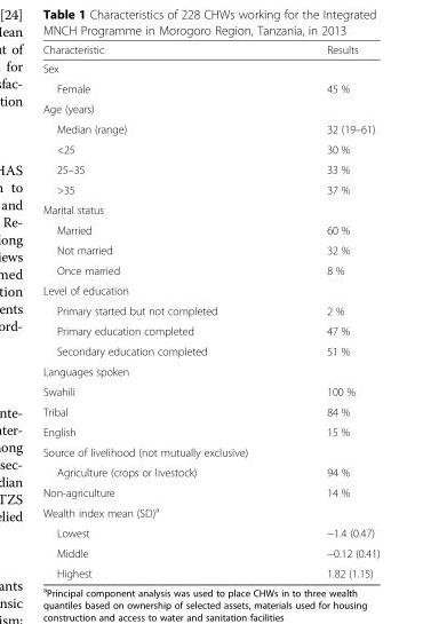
<table><thead><tr><td>Characteristic</td><td>Results</td></tr></thead><tbody><tr><td colspan="2">Sex</td></tr><tr><td>Female</td><td>45 %</td></tr><tr><td colspan="2">Age (years)</td></tr><tr><td>Median (range)</td><td>32 (19–61)</td></tr><tr><td>&lt;25</td><td>30 %</td></tr><tr><td>25–35</td><td>33 %</td></tr><tr><td>&gt;35</td><td>37 %</td></tr><tr><td colspan="2">Marital status</td></tr><tr><td>Married</td><td>60 %</td></tr><tr><td>Not married</td><td>32 %</td></tr><tr><td>Once married</td><td>8 %</td></tr><tr><td colspan="2">Level of education</td></tr><tr><td>Primary started but not completed</td><td>2 %</td></tr><tr><td>Primary education completed</td><td>47 %</td></tr><tr><td>Secondary education completed</td><td>51 %</td></tr><tr><td colspan="2">Languages spoken</td></tr><tr><td>Swahili</td><td>100 %</td></tr><tr><td>Tribal</td><td>84 %</td></tr><tr><td>English</td><td>15 %</td></tr><tr><td colspan="2">Source of livelihood (not mutually exclusive)</td></tr><tr><td>Agriculture (crops or livestock)</td><td>94 %</td></tr><tr><td>Non-agriculture</td><td>14 %</td></tr><tr><td colspan="2">Wealth index mean (SD)<sup>a</sup></td></tr><tr><td>Lowest</td><td>−1.4 (0.47)</td></tr><tr><td>Middle</td><td>−0.12 (0.41)</td></tr><tr><td>Highest</td><td>1.82 (1.15)</td></tr></tbody></table>